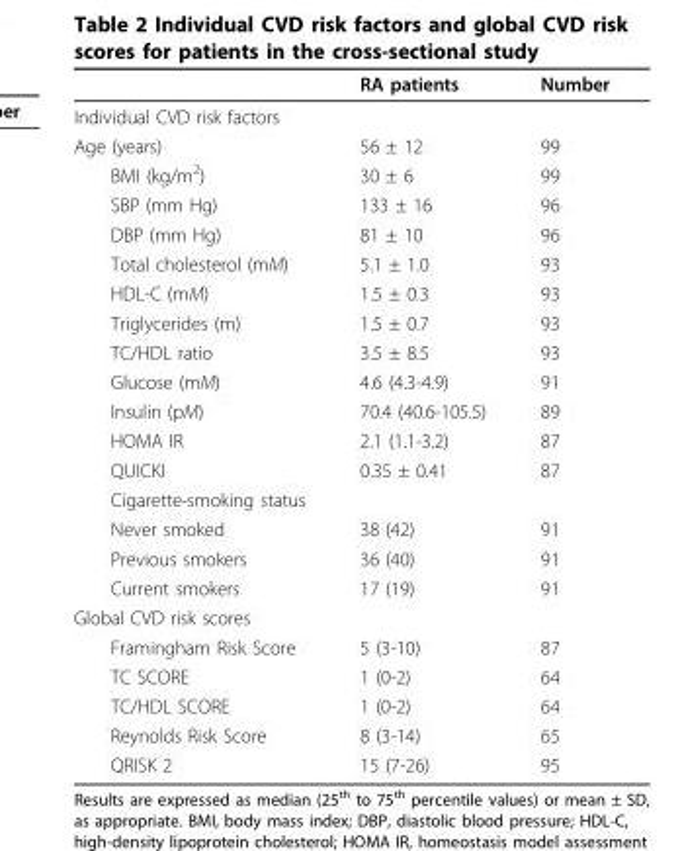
<table><thead><tr><td></td><td>RA patients</td><td>Number</td></tr></thead><tbody><tr><td colspan="3">Individual CVD risk factors</td></tr><tr><td>Age (years)</td><td>56 ± 12</td><td>99</td></tr><tr><td>BMI (kg/m<sup>2</sup>)</td><td>30 ± 6</td><td>99</td></tr><tr><td>SBP (mm Hg)</td><td>133 ± 16</td><td>96</td></tr><tr><td>DBP (mm Hg)</td><td>81 ± 10</td><td>96</td></tr><tr><td>Total cholesterol (mM)</td><td>5.1 ± 1.0</td><td>93</td></tr><tr><td>HDL-C (mM)</td><td>1.5 ± 0.3</td><td>93</td></tr><tr><td>Triglycerides (m)</td><td>1.5 ± 0.7</td><td>93</td></tr><tr><td>TC/HDL ratio</td><td>3.5 ± 8.5</td><td>93</td></tr><tr><td>Glucose (mM)</td><td>4.6 (4.3-4.9)</td><td>91</td></tr><tr><td>Insulin (pM)</td><td>70.4 (40.6-105.5)</td><td>89</td></tr><tr><td>HOMA IR</td><td>2.1 (1.1-3.2)</td><td>87</td></tr><tr><td>QUICKI</td><td>0.35 ± 0.41</td><td>87</td></tr><tr><td colspan="3">Cigarette-smoking status</td></tr><tr><td>Never smoked</td><td>38 (42)</td><td>91</td></tr><tr><td>Previous smokers</td><td>36 (40)</td><td>91</td></tr><tr><td>Current smokers</td><td>17 (19)</td><td>91</td></tr><tr><td colspan="3">Global CVD risk scores</td></tr><tr><td>Framingham Risk Score</td><td>5 (3-10)</td><td>87</td></tr><tr><td>TC SCORE</td><td>1 (0-2)</td><td>64</td></tr><tr><td>TC/HDL SCORE</td><td>1 (0-2)</td><td>64</td></tr><tr><td>Reynolds Risk Score</td><td>8 (3-14)</td><td>65</td></tr><tr><td>QRISK 2</td><td>15 (7-26)</td><td>95</td></tr></tbody></table>